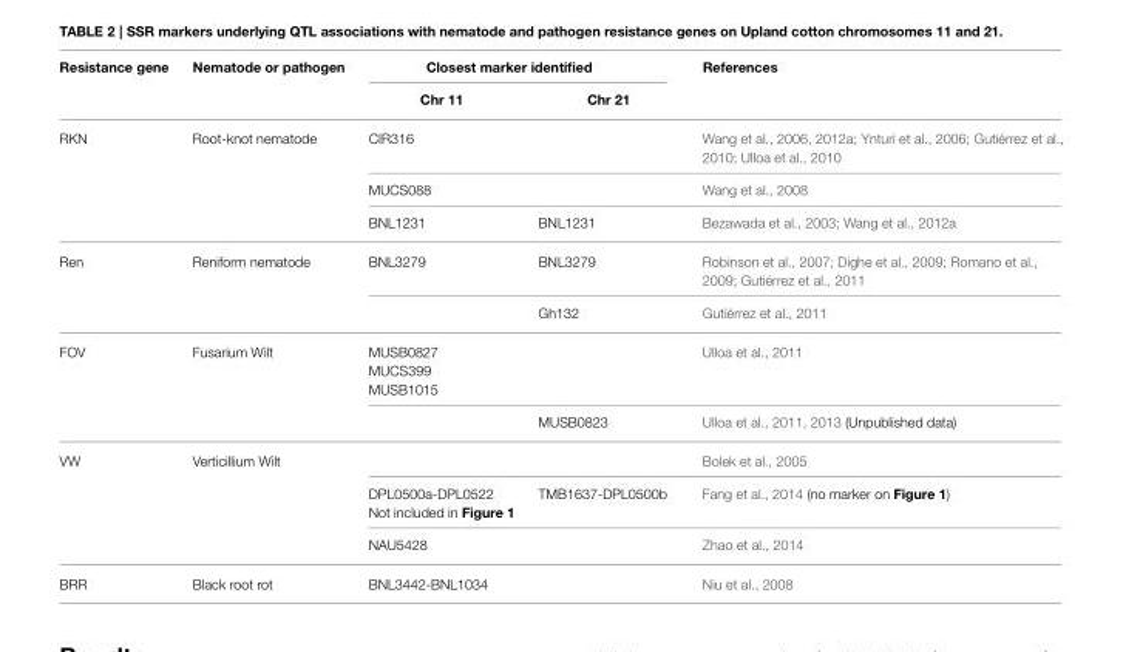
<table><thead><tr><td rowspan="2">Resistance gene</td><td rowspan="2">Nematode or pathogen</td><td colspan="2">Closest marker identified</td><td rowspan="2">References</td></tr><tr><td>Chr 11</td><td>Chr 21</td></tr></thead><tbody><tr><td rowspan="3">RKN</td><td>Root-knot nematode</td><td>CIR316</td><td></td><td>Wang et al., 2006, 2012a; Ynturi et al., 2006; Gutiérrez et al., 2010; Ulloa et al., 2010</td></tr><tr><td></td><td>MUCS088</td><td></td><td>Wang et al., 2008</td></tr><tr><td></td><td>BNL1231</td><td>BNL1231</td><td>Bezawada et al., 2003; Wang et al., 2012a</td></tr><tr><td rowspan="2">Ren</td><td>Reniform nematode</td><td>BNL3279</td><td>BNL3279</td><td>Robinson et al., 2007; Dighe et al., 2009; Romano et al., 2009; Gutiérrez et al., 2011</td></tr><tr><td></td><td></td><td>Gh132</td><td>Gutiérrez et al., 2011</td></tr><tr><td rowspan="2">FOV</td><td>Fusarium Wilt</td><td>MUSB0827 MUCS399 MUSB1015</td><td></td><td>Ulloa et al., 2011</td></tr><tr><td></td><td></td><td>MUSB0823</td><td>Ulloa et al., 2011, 2013 (Unpublished data)</td></tr><tr><td rowspan="3">VW</td><td>Verticillium Wilt</td><td></td><td></td><td>Bolek et al., 2005</td></tr><tr><td></td><td>DPL0500a-DPL0522 Not included in Figure 1</td><td>TMB1637-DPL0500b</td><td>Fang et al., 2014 (no marker on Figure 1)</td></tr><tr><td></td><td>NAU5428</td><td></td><td>Zhao et al., 2014</td></tr><tr><td>BRR</td><td>Black root rot</td><td>BNL3442-BNL1034</td><td></td><td>Niu et al., 2008</td></tr></tbody></table>